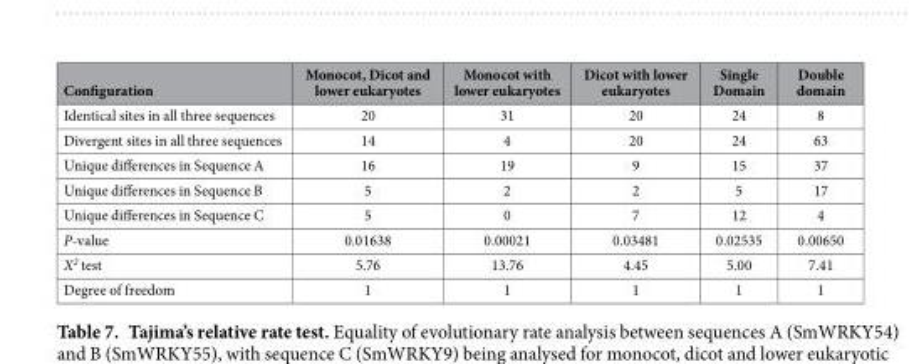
<table><thead><tr><td>Configuration</td><td>Monocot, Dicot and lower eukaryotes</td><td>Monocot with lower eukaryotes</td><td>Dicot with lower eukaryotes</td><td>Single Domain</td><td>Double domain</td></tr></thead><tbody><tr><td>Identical sites in all three sequences</td><td>20</td><td>31</td><td>20</td><td>24</td><td>8</td></tr><tr><td>Divergent sites in all three sequences</td><td>14</td><td>4</td><td>20</td><td>24</td><td>63</td></tr><tr><td>Unique differences in Sequence A</td><td>16</td><td>19</td><td>9</td><td>15</td><td>37</td></tr><tr><td>Unique differences in Sequence B</td><td>5</td><td>2</td><td>2</td><td>5</td><td>17</td></tr><tr><td>Unique differences in Sequence C</td><td>5</td><td>0</td><td>7</td><td>12</td><td>4</td></tr><tr><td>P-value</td><td>0.01638</td><td>0.00021</td><td>0.03481</td><td>0.02535</td><td>0.00650</td></tr><tr><td>X<sup>2</sup> test</td><td>5.76</td><td>13.76</td><td>4.45</td><td>5.00</td><td>7.41</td></tr><tr><td>Degree of freedom</td><td>1</td><td>1</td><td>1</td><td>1</td><td>1</td></tr></tbody></table>